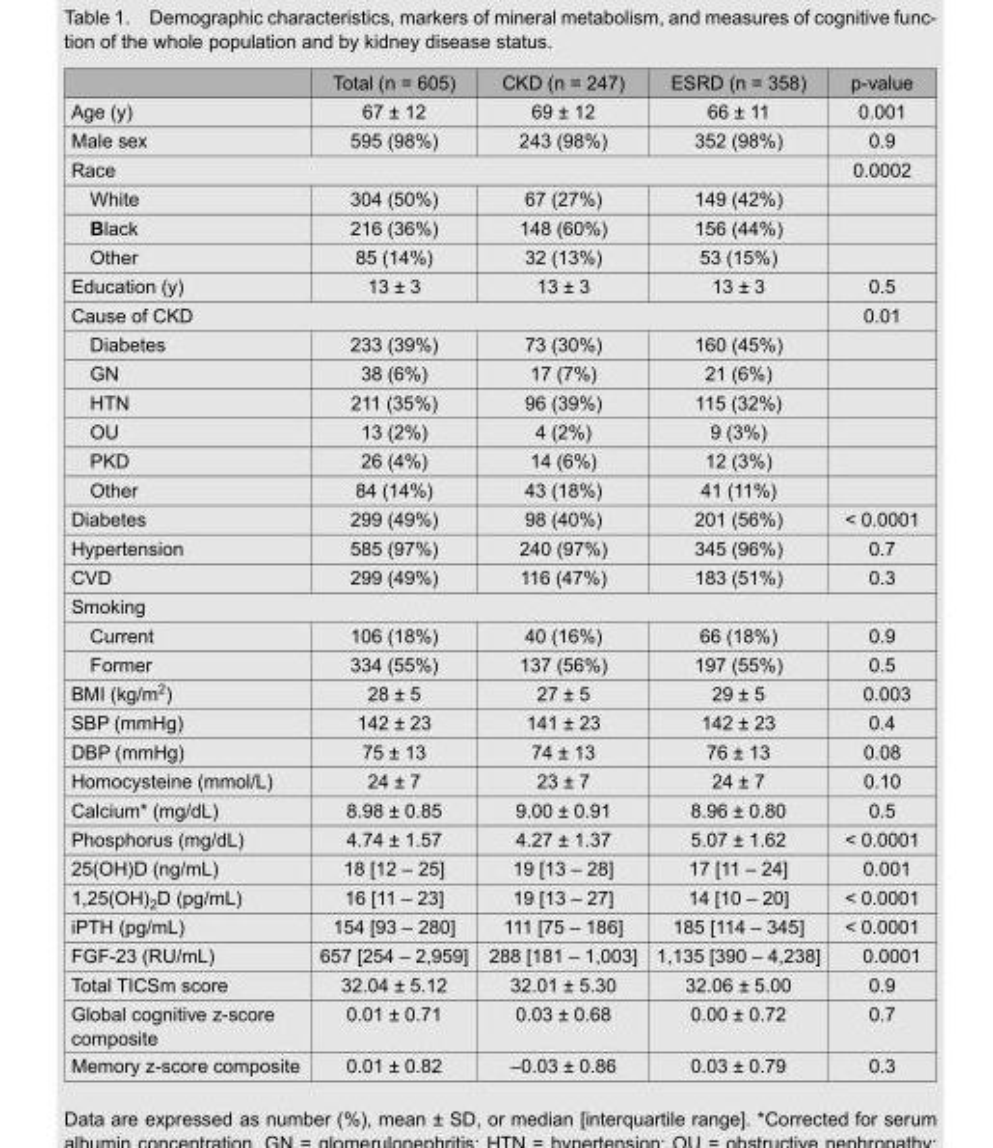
<table><thead><tr><td></td><td>Total (n = 605)</td><td>CKD (n = 247)</td><td>ESRD (n = 358)</td><td>pvalue</td></tr></thead><tbody><tr><td>Age (y)</td><td>67 ± 12</td><td>69 ± 12</td><td>66 ± 11</td><td>0.001</td></tr><tr><td>Male sex</td><td>595 (98%)</td><td>243 (98%)</td><td>352 (98%)</td><td>0.9</td></tr><tr><td colspan="4">Race</td><td>0.0002</td></tr><tr><td>White</td><td>304 (50%)</td><td>67 (27%)</td><td>149 (42%)</td><td></td></tr><tr><td>Black</td><td>216 (36%)</td><td>148 (60%)</td><td>156 (44%)</td><td></td></tr><tr><td>Other</td><td>85 (14%)</td><td>32 (13%)</td><td>53 (15%)</td><td></td></tr><tr><td>Education (y)</td><td>13 ± 3</td><td>13 ± 3</td><td>13 ± 3</td><td>0.5</td></tr><tr><td colspan="4">Cause of CKD</td><td>0.01</td></tr><tr><td>Diabetes</td><td>233 (39%)</td><td>73 (30%)</td><td>160 (45%)</td><td></td></tr><tr><td>GN</td><td>38 (6%)</td><td>17 (7%)</td><td>21 (6%)</td><td></td></tr><tr><td>HTN</td><td>211 (35%)</td><td>96 (39%)</td><td>115 (32%)</td><td></td></tr><tr><td>OU</td><td>13 (2%)</td><td>4 (2%)</td><td>9 (3%)</td><td></td></tr><tr><td>PKD</td><td>26 (4%)</td><td>14 (6%)</td><td>12 (3%)</td><td></td></tr><tr><td>Other</td><td>84 (14%)</td><td>43 (18%)</td><td>41 (11%)</td><td></td></tr><tr><td>Diabetes</td><td>299 (49%)</td><td>98 (40%)</td><td>201 (56%)</td><td>&lt; 0.0001</td></tr><tr><td>Hypertension</td><td>585 (97%)</td><td>240 (97%)</td><td>345 (96%)</td><td>0.7</td></tr><tr><td>CVD</td><td>299 (49%)</td><td>116 (47%)</td><td>183 (51%)</td><td>0.3</td></tr><tr><td colspan="5">Smoking</td></tr><tr><td>Current</td><td>106 (18%)</td><td>40 (16%)</td><td>66 (18%)</td><td>0.9</td></tr><tr><td>Former</td><td>334 (55%)</td><td>137 (56%)</td><td>197 (55%)</td><td>0.5</td></tr><tr><td>BMI (kg/m<sup>2</sup>)</td><td>28 ± 5</td><td>27 ± 5</td><td>29 ± 5</td><td>0.003</td></tr><tr><td>SBP (mmHg)</td><td>142 ± 23</td><td>141 ± 23</td><td>142 ± 23</td><td>0.4</td></tr><tr><td>DBP (mmHg)</td><td>75 ± 13</td><td>74 ± 13</td><td>76 ± 13</td><td>0.08</td></tr><tr><td>Homocysteine (mmol/L)</td><td>24 ± 7</td><td>23 ± 7</td><td>24 ± 7</td><td>0.10</td></tr><tr><td>Calcium* (mg/dL)</td><td>8.98 ± 0.85</td><td>9.00 ± 0.91</td><td>8.96 ± 0.80</td><td>0.5</td></tr><tr><td>Phosphorus (mg/dL)</td><td>4.74 ± 1.57</td><td>4.27 ± 1.37</td><td>5.07 ± 1.62</td><td>&lt; 0.0001</td></tr><tr><td>25(OH)D (ng/mL)</td><td>18 [12 – 25]</td><td>19 [13 – 28]</td><td>17 [11 – 24]</td><td>0.001</td></tr><tr><td>1,25(OH)<sub>2</sub>D (pg/mL)</td><td>16 [11 – 23]</td><td>19 [13 – 27]</td><td>14 [10 – 20]</td><td>&lt; 0.0001</td></tr><tr><td>iPTH (pg/mL)</td><td>154 [93 – 280]</td><td>111 [75 – 186]</td><td>185 [114 – 345]</td><td>&lt; 0.0001</td></tr><tr><td>FGF23 (RU/mL)</td><td>657 [254 – 2,959]</td><td>288 [181 – 1,003]</td><td>1,135 [390 – 4,238]</td><td>0.0001</td></tr><tr><td>Total TICSm score</td><td>32.04 ± 5.12</td><td>32.01 ± 5.30</td><td>32.06 ± 5.00</td><td>0.9</td></tr><tr><td>Global cognitive zscore composite</td><td>0.01 ± 0.71</td><td>0.03 ± 0.68</td><td>0.00 ± 0.72</td><td>0.7</td></tr><tr><td>Memory zscore composite</td><td>0.01 ± 0.82</td><td>–0.03 ± 0.86</td><td>0.03 ± 0.79</td><td>0.3</td></tr></tbody></table>